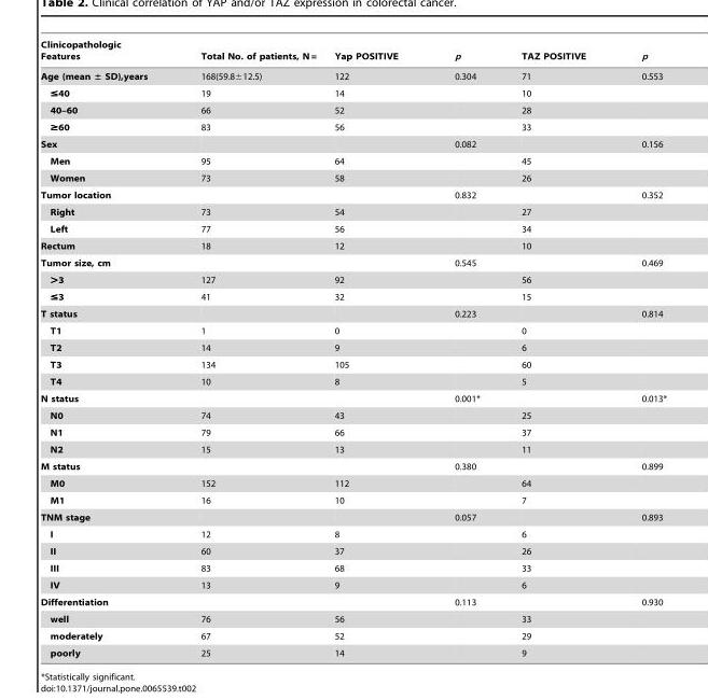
<table><thead><tr><td>Clinicopathologic Features</td><td>Total No. of patients, N =</td><td>Yap POSITIVE</td><td>p</td><td>TAZ POSITIVE</td><td>p</td></tr></thead><tbody><tr><td>Age (mean ± SD),years</td><td>168(59.8±12.5)</td><td>122</td><td>0.304</td><td>71</td><td>0.553</td></tr><tr><td>≤40</td><td>19</td><td>14</td><td></td><td>10</td><td></td></tr><tr><td>40–60</td><td>66</td><td>52</td><td></td><td>28</td><td></td></tr><tr><td>≥60</td><td>83</td><td>56</td><td></td><td>33</td><td></td></tr><tr><td>Sex</td><td></td><td></td><td>0.082</td><td></td><td>0.156</td></tr><tr><td>Men</td><td>95</td><td>64</td><td></td><td>45</td><td></td></tr><tr><td>Women</td><td>73</td><td>58</td><td></td><td>26</td><td></td></tr><tr><td>Tumor location</td><td></td><td></td><td>0.832</td><td></td><td>0.352</td></tr><tr><td>Right</td><td>73</td><td>54</td><td></td><td>27</td><td></td></tr><tr><td>Left</td><td>77</td><td>56</td><td></td><td>34</td><td></td></tr><tr><td>Rectum</td><td>18</td><td>12</td><td></td><td>10</td><td></td></tr><tr><td>Tumor size, cm</td><td></td><td></td><td>0.545</td><td></td><td>0.469</td></tr><tr><td>&gt;3</td><td>127</td><td>92</td><td></td><td>56</td><td></td></tr><tr><td>≤3</td><td>41</td><td>32</td><td></td><td>15</td><td></td></tr><tr><td>T status</td><td></td><td></td><td>0.223</td><td></td><td>0.814</td></tr><tr><td>T1</td><td>1</td><td>0</td><td></td><td>0</td><td></td></tr><tr><td>T2</td><td>14</td><td>9</td><td></td><td>6</td><td></td></tr><tr><td>T3</td><td>134</td><td>105</td><td></td><td>60</td><td></td></tr><tr><td>T4</td><td>10</td><td>8</td><td></td><td>5</td><td></td></tr><tr><td>N status</td><td></td><td></td><td>0.001*</td><td></td><td>0.013*</td></tr><tr><td>N0</td><td>74</td><td>43</td><td></td><td>25</td><td></td></tr><tr><td>N1</td><td>79</td><td>66</td><td></td><td>37</td><td></td></tr><tr><td>N2</td><td>15</td><td>13</td><td></td><td>11</td><td></td></tr><tr><td>M status</td><td></td><td></td><td>0.380</td><td></td><td>0.899</td></tr><tr><td>M0</td><td>152</td><td>112</td><td></td><td>64</td><td></td></tr><tr><td>M1</td><td>16</td><td>10</td><td></td><td>7</td><td></td></tr><tr><td>TNM stage</td><td></td><td></td><td>0.057</td><td></td><td>0.893</td></tr><tr><td>I</td><td>12</td><td>8</td><td></td><td>6</td><td></td></tr><tr><td>II</td><td>60</td><td>37</td><td></td><td>26</td><td></td></tr><tr><td>III</td><td>83</td><td>68</td><td></td><td>33</td><td></td></tr><tr><td>IV</td><td>13</td><td>9</td><td></td><td>6</td><td></td></tr><tr><td>Differentiation</td><td></td><td></td><td>0.113</td><td></td><td>0.930</td></tr><tr><td>well</td><td>76</td><td>56</td><td></td><td>33</td><td></td></tr><tr><td>moderately</td><td>67</td><td>52</td><td></td><td>29</td><td></td></tr><tr><td>poorly</td><td>25</td><td>14</td><td></td><td>9</td><td></td></tr></tbody></table>